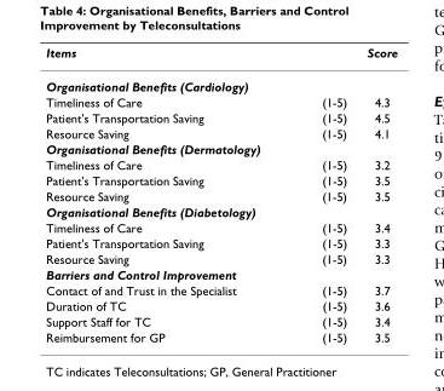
<table><thead><tr><td>Items</td><td></td><td>Score</td></tr></thead><tbody><tr><td colspan="3">Organisational Benefits (Cardiology)</td></tr><tr><td>Timeliness of Care</td><td>(1-5)</td><td>4.3</td></tr><tr><td>Patient&#x27;s Transportation Saving</td><td>(1-5)</td><td>4.5</td></tr><tr><td>Resource Saving</td><td>(1-5)</td><td>4.1</td></tr><tr><td colspan="3">Organisational Benefits (Dermatology)</td></tr><tr><td>Timeliness of Care</td><td>(1-5)</td><td>3.2</td></tr><tr><td>Patient&#x27;s Transportation Saving</td><td>(1-5)</td><td>3.5</td></tr><tr><td>Resource Saving</td><td>(1-5)</td><td>3.5</td></tr><tr><td colspan="3">Organisational Benefits (Diabetology)</td></tr><tr><td>Timeliness of Care</td><td>(1-5)</td><td>3.4</td></tr><tr><td>Patient&#x27;s Transportation Saving</td><td>(1-5)</td><td>3.3</td></tr><tr><td>Resource Saving</td><td>(1-5)</td><td>3.3</td></tr><tr><td colspan="3">Barriers and Control Improvement</td></tr><tr><td>Contact of and Trust in the Specialist</td><td>(1-5)</td><td>3.7</td></tr><tr><td>Duration of TC</td><td>(1-5)</td><td>3.6</td></tr><tr><td>Support Staff for TC</td><td>(1-5)</td><td>3.4</td></tr><tr><td>Reimbursement for GP</td><td>(1-5)</td><td>3.5</td></tr></tbody></table>